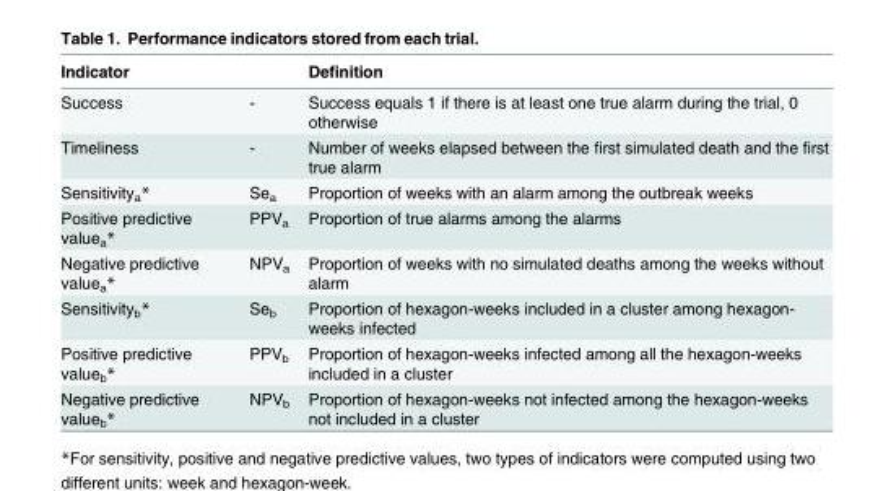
<table><thead><tr><td>Indicator</td><td></td><td>Definition</td></tr></thead><tbody><tr><td>Success</td><td>-</td><td>Success equals 1 if there is at least one true alarm during the trial, 0 otherwise</td></tr><tr><td>Timeliness</td><td>-</td><td>Number of weeks elapsed between the first simulated death and the first true alarm</td></tr><tr><td>Sensitivity<sub>a</sub>*</td><td>Se<sub>a</sub></td><td>Proportion of weeks with an alarm among the outbreak weeks</td></tr><tr><td>Positive predictive value<sub>a</sub>*</td><td>PPV<sub>a</sub></td><td>Proportion of true alarms among the alarms</td></tr><tr><td>Negative predictive value<sub>a</sub>*</td><td>NPV<sub>a</sub></td><td>Proportion of weeks with no simulated deaths among the weeks without alarm</td></tr><tr><td>Sensitivity<sub>b</sub>*</td><td>Se<sub>b</sub></td><td>Proportion of hexagon-weeks included in a cluster among hexagon- weeks infected</td></tr><tr><td>Positive predictive value<sub>b</sub>*</td><td>PPV<sub>b</sub></td><td>Proportion of hexagon-weeks infected among all the hexagon-weeks included in a cluster</td></tr><tr><td>Negative predictive value<sub>b</sub>*</td><td>NPV<sub>b</sub></td><td>Proportion of hexagon-weeks not infected among the hexagon-weeks not included in a cluster</td></tr></tbody></table>